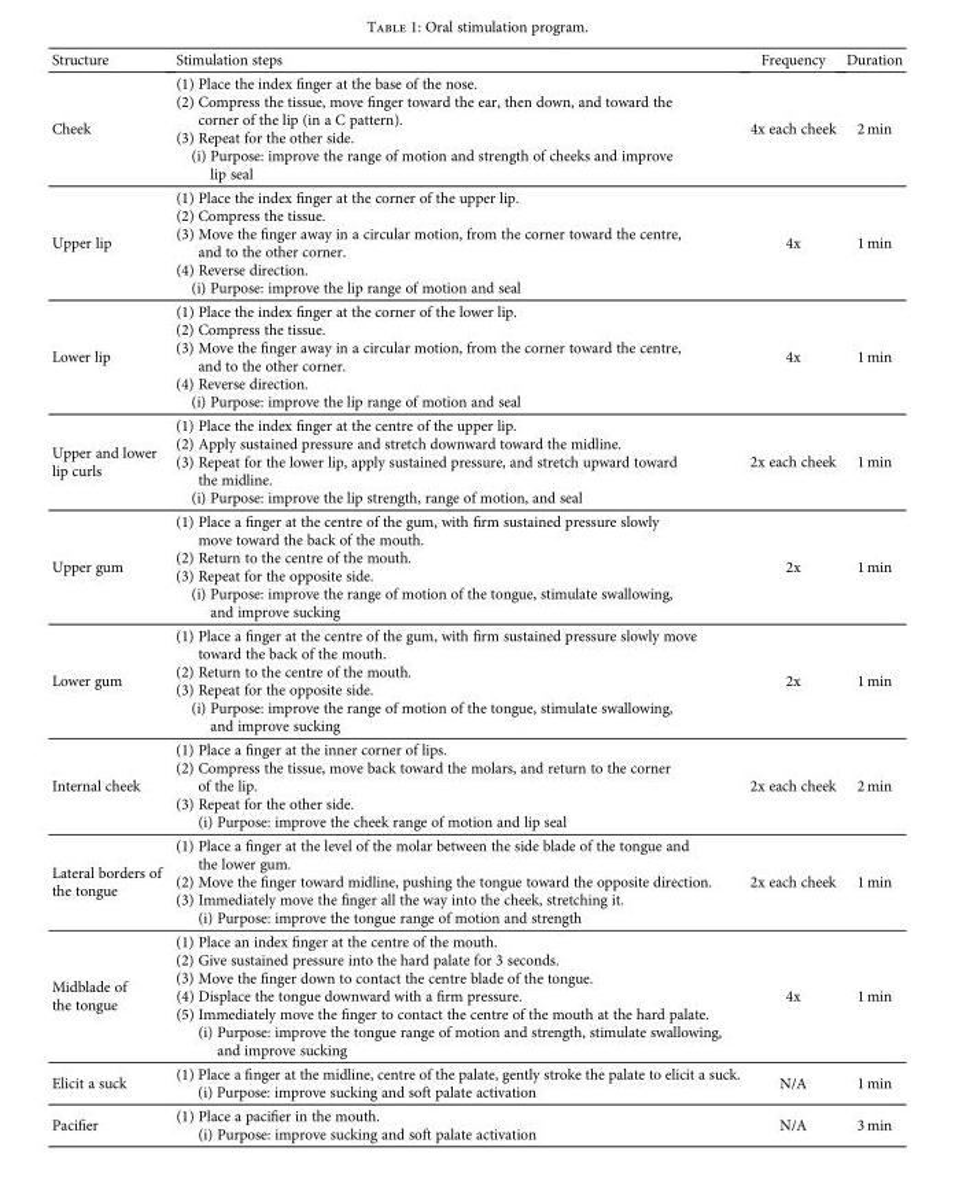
<table><thead><tr><td>Structure</td><td>Stimulation steps</td><td>Frequency</td><td>Duration</td></tr></thead><tbody><tr><td>Cheek</td><td>(1) Place the index finger at the base of the nose. (2) Compress the tissue, move finger toward the ear, then down, and toward the corner of the lip (in a C pattern). (3) Repeat for the other side. (i) Purpose: improve the range of motion and strength of cheeks and improve lip seal</td><td>4x each cheek</td><td>2 min</td></tr><tr><td>Upper lip</td><td>(1) Place the index finger at the corner of the upper lip. (2) Compress the tissue. (3) Move the finger away in a circular motion, from the corner toward the centre, and to the other corner. (4) Reverse direction. (i) Purpose: improve the lip range of motion and seal</td><td>4x</td><td>1 min</td></tr><tr><td>Lower lip</td><td>(1) Place the index finger at the corner of the lower lip. (2) Compress the tissue. (3) Move the finger away in a circular motion, from the corner toward the centre, and to the other corner. (4) Reverse direction. (i) Purpose: improve the lip range of motion and seal</td><td>4x</td><td>1 min</td></tr><tr><td>Upper and lower lip curls</td><td>(1) Place the index finger at the centre of the upper lip. (2) Apply sustained pressure and stretch downward toward the midline. (3) Repeat for the lower lip, apply sustained pressure, and stretch upward toward the midline. (i) Purpose: improve the lip strength, range of motion, and seal</td><td>2x each cheek</td><td>1 min</td></tr><tr><td>Upper gum</td><td>(1) Place a finger at the centre of the gum, with firm sustained pressure slowly move toward the back of the mouth. (2) Return to the centre of the mouth. (3) Repeat for the opposite side. (i) Purpose: improve the range of motion of the tongue, stimulate swallowing, and improve sucking</td><td>2x</td><td>1 min</td></tr><tr><td>Lower gum</td><td>(1) Place a finger at the centre of the gum, with firm sustained pressure slowly move toward the back of the mouth. (2) Return to the centre of the mouth. (3) Repeat for the opposite side. (i) Purpose: improve the range of motion of the tongue, stimulate swallowing, and improve sucking</td><td>2x</td><td>1 min</td></tr><tr><td>Internal cheek</td><td>(1) Place a finger at the inner corner of lips. (2) Compress the tissue, move back toward the molars, and return to the corner of the lip. (3) Repeat for the other side. (i) Purpose: improve the cheek range of motion and lip seal</td><td>2x each cheek</td><td>2 min</td></tr><tr><td>Lateral borders of the tongue</td><td>(1) Place a finger at the level of the molar between the side blade of the tongue and the lower gum. (2) Move the finger toward midline, pushing the tongue toward the opposite direction. (3) Immediately move the finger all the way into the cheek, stretching it. (i) Purpose: improve the tongue range of motion and strength</td><td>2x each cheek</td><td>1 min</td></tr><tr><td>Midblade of the tongue</td><td>(1) Place an index finger at the centre of the mouth. (2) Give sustained pressure into the hard palate for 3 seconds. (3) Move the finger down to contact the centre blade of the tongue. (4) Displace the tongue downward with a firm pressure. (5) Immediately move the finger to contact the centre of the mouth at the hard palate. (i) Purpose: improve the tongue range of motion and strength, stimulate swallowing, and improve sucking</td><td>4x</td><td>1 min</td></tr><tr><td>Elicit a suck</td><td>(1) Place a finger at the midline, centre of the palate, gently stroke the palate to elicit a suck. (i) Purpose: improve sucking and soft palate activation</td><td>N/A</td><td>1 min</td></tr><tr><td>Pacifier</td><td>(1) Place a pacifier in the mouth. (i) Purpose: improve sucking and soft palate activation</td><td>N/A</td><td>3 min</td></tr></tbody></table>